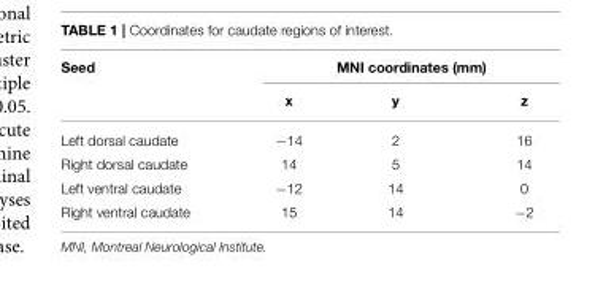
<table><thead><tr><td rowspan="2">Seed</td><td colspan="3">MNI coordinates (mm)</td></tr><tr><td>x</td><td>y</td><td>z</td></tr></thead><tbody><tr><td>Left dorsal caudate</td><td>−14</td><td>2</td><td>16</td></tr><tr><td>Right dorsal caudate</td><td>14</td><td>5</td><td>14</td></tr><tr><td>Left ventral caudate</td><td>−12</td><td>14</td><td>0</td></tr><tr><td>Right ventral caudate</td><td>15</td><td>14</td><td>−2</td></tr></tbody></table>